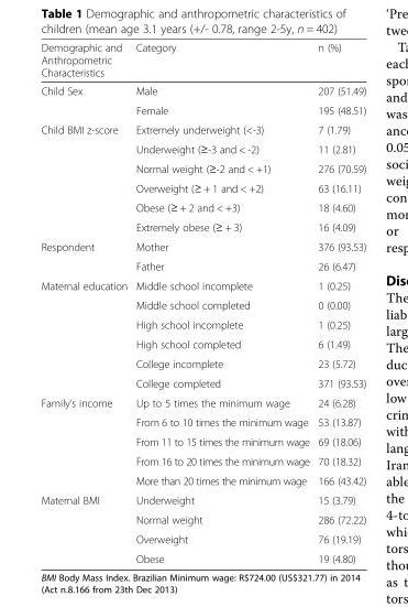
<table><thead><tr><td>Demographic and Anthropometric Characteristics</td><td>Category</td><td>n (%)</td></tr></thead><tbody><tr><td rowspan="2">Child Sex</td><td>Male</td><td>207 (51.49)</td></tr><tr><td>Female</td><td>195 (48.51)</td></tr><tr><td rowspan="6">Child BMI z-score</td><td>Extremely underweight (&lt;-3)</td><td>7 (1.79)</td></tr><tr><td>Underweight (≥-3 and &lt; -2)</td><td>11 (2.81)</td></tr><tr><td>Normal weight (≥-2 and &lt; +1)</td><td>276 (70.59)</td></tr><tr><td>Overweight (≥ + 1 and &lt; +2)</td><td>63 (16.11)</td></tr><tr><td>Obese (≥ + 2 and &lt; +3)</td><td>18 (4.60)</td></tr><tr><td>Extremely obese (≥ + 3)</td><td>16 (4.09)</td></tr><tr><td rowspan="2">Respondent</td><td>Mother</td><td>376 (93.53)</td></tr><tr><td>Father</td><td>26 (6.47)</td></tr><tr><td rowspan="6">Maternal education</td><td>Middle school incomplete</td><td>1 (0.25)</td></tr><tr><td>Middle school completed</td><td>0 (0.00)</td></tr><tr><td>High school incomplete</td><td>1 (0.25)</td></tr><tr><td>High school completed</td><td>6 (1.49)</td></tr><tr><td>College incomplete</td><td>23 (5.72)</td></tr><tr><td>College completed</td><td>371 (93.53)</td></tr><tr><td rowspan="5">Family’s income</td><td>Up to 5 times the minimum wage</td><td>24 (6.28)</td></tr><tr><td>From 6 to 10 times the minimum wage</td><td>53 (13.87)</td></tr><tr><td>From 11 to 15 times the minimum wage</td><td>69 (18.06)</td></tr><tr><td>From 16 to 20 times the minimum wage</td><td>70 (18.32)</td></tr><tr><td>More than 20 times the minimum wage</td><td>166 (43.42)</td></tr><tr><td rowspan="4">Maternal BMI</td><td>Underweight</td><td>15 (3.79)</td></tr><tr><td>Normal weight</td><td>286 (72.22)</td></tr><tr><td>Overweight</td><td>76 (19.19)</td></tr><tr><td>Obese</td><td>19 (4.80)</td></tr></tbody></table>